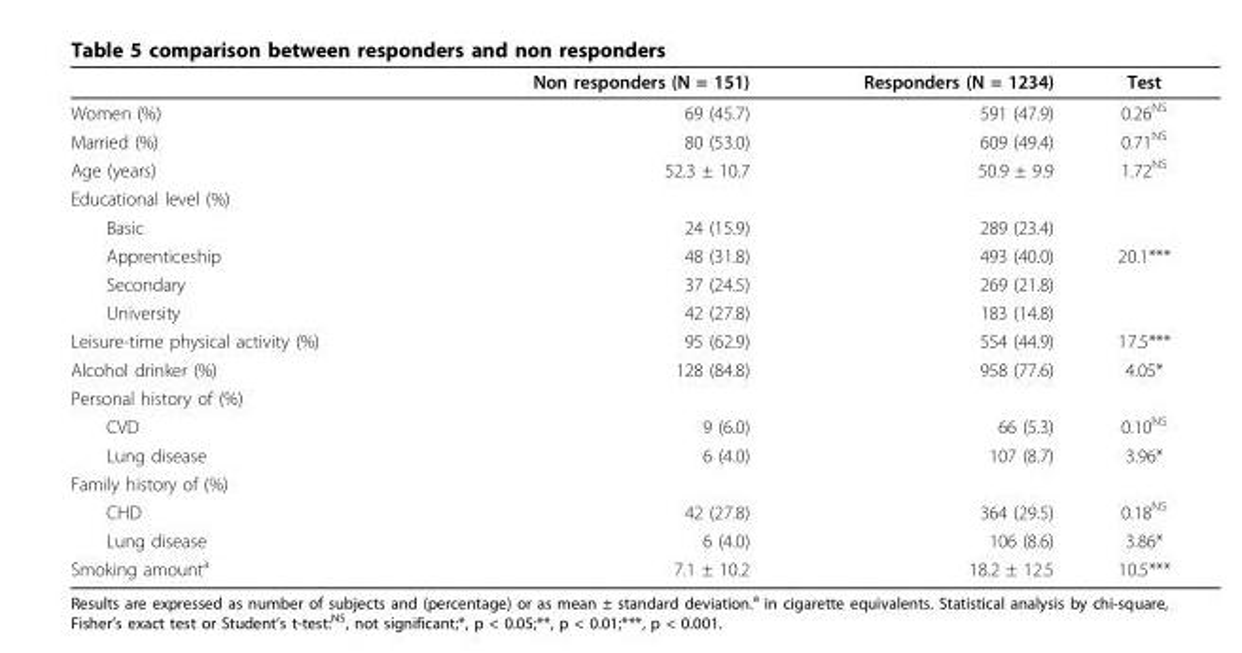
<table><thead><tr><td></td><td>Non responders (N = 151)</td><td>Responders (N = 1234)</td><td>Test</td></tr></thead><tbody><tr><td>Women (%)</td><td>69 (45.7)</td><td>591 (47.9)</td><td>0.26<sup>NS</sup></td></tr><tr><td>Married (%)</td><td>80 (53.0)</td><td>609 (49.4)</td><td>0.71<sup>NS</sup></td></tr><tr><td>Age (years)</td><td>52.3 ± 10.7</td><td>50.9 ± 9.9</td><td>1.72<sup>NS</sup></td></tr><tr><td colspan="4">Educational level (%)</td></tr><tr><td>Basic</td><td>24 (15.9)</td><td>289 (23.4)</td><td></td></tr><tr><td>Apprenticeship</td><td>48 (31.8)</td><td>493 (40.0)</td><td>20.1***</td></tr><tr><td>Secondary</td><td>37 (24.5)</td><td>269 (21.8)</td><td></td></tr><tr><td>University</td><td>42 (27.8)</td><td>183 (14.8)</td><td></td></tr><tr><td>Leisure-time physical activity (%)</td><td>95 (62.9)</td><td>554 (44.9)</td><td>17.5***</td></tr><tr><td>Alcohol drinker (%)</td><td>128 (84.8)</td><td>958 (77.6)</td><td>4.05*</td></tr><tr><td colspan="4">Personal history of (%)</td></tr><tr><td>CVD</td><td>9 (6.0)</td><td>66 (5.3)</td><td>0.10<sup>NS</sup></td></tr><tr><td>Lung disease</td><td>6 (4.0)</td><td>107 (8.7)</td><td>3.96*</td></tr><tr><td colspan="4">Family history of (%)</td></tr><tr><td>CHD</td><td>42 (27.8)</td><td>364 (29.5)</td><td>0.18<sup>NS</sup></td></tr><tr><td>Lung disease</td><td>6 (4.0)</td><td>106 (8.6)</td><td>3.86*</td></tr><tr><td>Smoking amount<sup>a</sup></td><td>7.1 ± 10.2</td><td>18.2 ± 12.5</td><td>10.5***</td></tr></tbody></table>